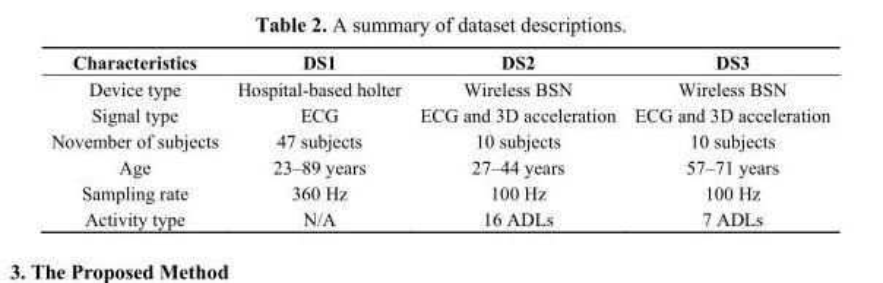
<table><thead><tr><td>Characteristics</td><td>DS1</td><td>DS2</td><td>DS3</td></tr></thead><tbody><tr><td>Device type</td><td>Hospital-based holter</td><td>Wireless BSN</td><td>Wireless BSN</td></tr><tr><td>Signal type</td><td>ECG</td><td>ECG and 3D acceleration</td><td>ECG and 3D acceleration</td></tr><tr><td>November of subjects</td><td>47 subjects</td><td>10 subjects</td><td>10 subjects</td></tr><tr><td>Age</td><td>23–89 years</td><td>27–44 years</td><td>57–71 years</td></tr><tr><td>Sampling rate</td><td>360 Hz</td><td>100 Hz</td><td>100 Hz</td></tr><tr><td>Activity type</td><td>N/A</td><td>16 ADLs</td><td>7 ADLs</td></tr></tbody></table>